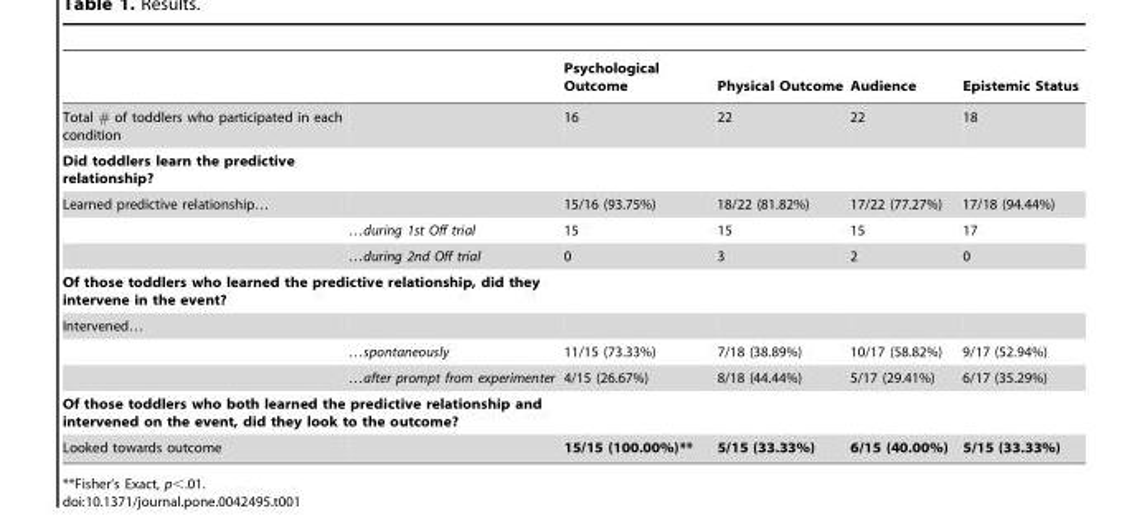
<table><thead><tr><td></td><td></td><td>Psychological Outcome</td><td>Physical Outcome</td><td>Audience</td><td>Epistemic Status</td></tr></thead><tbody><tr><td>Total # of toddlers who participated in each condition</td><td></td><td>16</td><td>22</td><td>22</td><td>18</td></tr><tr><td colspan="6">Did toddlers learn the predictive relationship?</td></tr><tr><td rowspan="3">Learned predictive relationship…</td><td></td><td>15/16 (93.75%)</td><td>18/22 (81.82%)</td><td>17/22 (77.27%)</td><td>17/18 (94.44%)</td></tr><tr><td>…during 1st Off trial</td><td>15</td><td>15</td><td>15</td><td>17</td></tr><tr><td>…during 2nd Off trial</td><td>0</td><td>3</td><td>2</td><td>0</td></tr><tr><td colspan="6">Of those toddlers who learned the predictive relationship, did they intervene in the event?</td></tr><tr><td colspan="6">Intervened…</td></tr><tr><td></td><td>…spontaneously</td><td>11/15 (73.33%)</td><td>7/18 (38.89%)</td><td>10/17 (58.82%)</td><td>9/17 (52.94%)</td></tr><tr><td></td><td>…after prompt from experimenter</td><td>4/15 (26.67%)</td><td>8/18 (44.44%)</td><td>5/17 (29.41%)</td><td>6/17 (35.29%)</td></tr><tr><td colspan="6">Of those toddlers who both learned the predictive relationship and intervened on the event, did they look to the outcome?</td></tr><tr><td>Looked towards outcome</td><td></td><td>15/15 (100.00%)**</td><td>5/15 (33.33%)</td><td>6/15 (40.00%)</td><td>5/15 (33.33%)</td></tr></tbody></table>